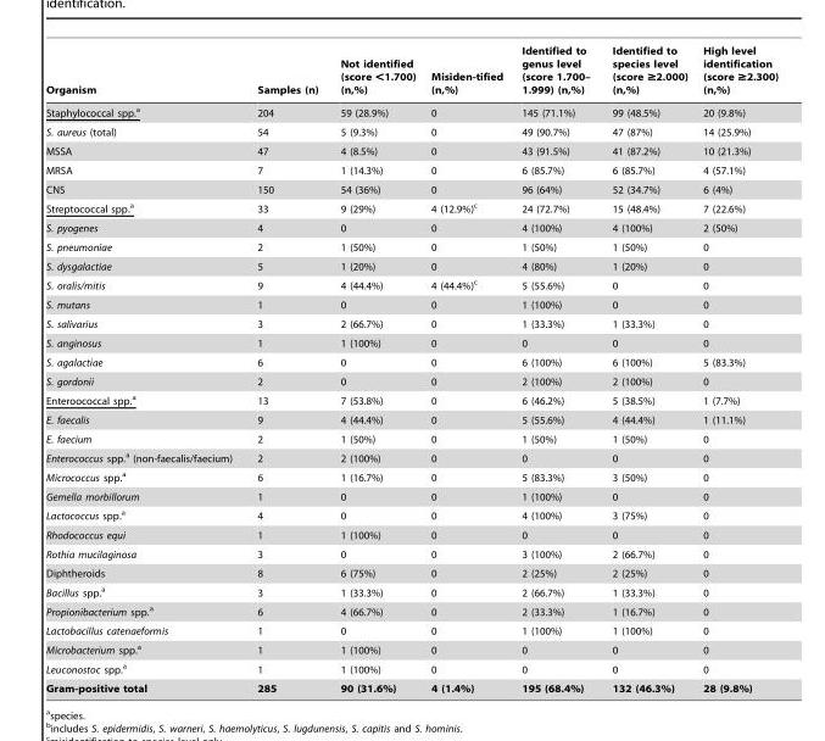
<table><thead><tr><td>Organism</td><td>Samples (n)</td><td>Not identified (score &lt;1.700) (n,%)</td><td>Misiden-tified (n,%)</td><td>Identified to genus level (score 1.700– 1.999) (n,%)</td><td>Identified to species level (score ≥2.000) (n,%)</td><td>High level identification (score ≥2.300) (n,%)</td></tr></thead><tbody><tr><td>Staphylococcal spp.a</td><td>204</td><td>59 (28.9%)</td><td>0</td><td>145 (71.1%)</td><td>99 (48.5%)</td><td>20 (9.8%)</td></tr><tr><td>S. aureus (total)</td><td>54</td><td>5 (9.3%)</td><td>0</td><td>49 (90.7%)</td><td>47 (87%)</td><td>14 (25.9%)</td></tr><tr><td>MSSA</td><td>47</td><td>4 (8.5%)</td><td>0</td><td>43 (91.5%)</td><td>41 (87.2%)</td><td>10 (21.3%)</td></tr><tr><td>MRSA</td><td>7</td><td>1 (14.3%)</td><td>0</td><td>6 (85.7%)</td><td>6 (85.7%)</td><td>4 (57.1%)</td></tr><tr><td>CNS</td><td>150</td><td>54 (36%)</td><td>0</td><td>96 (64%)</td><td>52 (34.7%)</td><td>6 (4%)</td></tr><tr><td>Streptococcal spp.a</td><td>33</td><td>9 (29%)</td><td>4 (12.9%)<sup>c</sup></td><td>24 (72.7%)</td><td>15 (48.4%)</td><td>7 (22.6%)</td></tr><tr><td>S. pyogenes</td><td>4</td><td>0</td><td>0</td><td>4 (100%)</td><td>4 (100%)</td><td>2 (50%)</td></tr><tr><td>S. pneumoniae</td><td>2</td><td>1 (50%)</td><td>0</td><td>1 (50%)</td><td>1 (50%)</td><td>0</td></tr><tr><td>S. dysgalactiae</td><td>5</td><td>1 (20%)</td><td>0</td><td>4 (80%)</td><td>1 (20%)</td><td>0</td></tr><tr><td>S. oralis/mitis</td><td>9</td><td>4 (44.4%)</td><td>4 (44.4%)<sup>c</sup></td><td>5 (55.6%)</td><td>0</td><td>0</td></tr><tr><td>S. mutans</td><td>1</td><td>0</td><td>0</td><td>1 (100%)</td><td>0</td><td>0</td></tr><tr><td>S. salivarius</td><td>3</td><td>2 (66.7%)</td><td>0</td><td>1 (33.3%)</td><td>1 (33.3%)</td><td>0</td></tr><tr><td>S. anginosus</td><td>1</td><td>1 (100%)</td><td>0</td><td>0</td><td>0</td><td>0</td></tr><tr><td>S. agalactiae</td><td>6</td><td>0</td><td>0</td><td>6 (100%)</td><td>6 (100%)</td><td>5 (83.3%)</td></tr><tr><td>S. gordonii</td><td>2</td><td>0</td><td>0</td><td>2 (100%)</td><td>2 (100%)</td><td>0</td></tr><tr><td>Enteroococcal spp.a</td><td>13</td><td>7 (53.8%)</td><td>0</td><td>6 (46.2%)</td><td>5 (38.5%)</td><td>1 (7.7%)</td></tr><tr><td>E. faecalis</td><td>9</td><td>4 (44.4%)</td><td>0</td><td>5 (55.6%)</td><td>4 (44.4%)</td><td>1 (11.1%)</td></tr><tr><td>E. faecium</td><td>2</td><td>1 (50%)</td><td>0</td><td>1 (50%)</td><td>1 (50%)</td><td>0</td></tr><tr><td>Enterococcus spp.<sup>a</sup> (non-faecalis/faecium)</td><td>2</td><td>2 (100%)</td><td>0</td><td>0</td><td>0</td><td>0</td></tr><tr><td>Micrococcus spp.<sup>a</sup></td><td>6</td><td>1 (16.7%)</td><td>0</td><td>5 (83.3%)</td><td>3 (50%)</td><td>0</td></tr><tr><td>Gemella morbillorum</td><td>1</td><td>0</td><td>0</td><td>1 (100%)</td><td>0</td><td>0</td></tr><tr><td>Lactococcus spp.<sup>a</sup></td><td>4</td><td>0</td><td>0</td><td>4 (100%)</td><td>3 (75%)</td><td>0</td></tr><tr><td>Rhodococcus equi</td><td>1</td><td>1 (100%)</td><td>0</td><td>0</td><td>0</td><td>0</td></tr><tr><td>Rothia mucilaginosa</td><td>3</td><td>0</td><td>0</td><td>3 (100%)</td><td>2 (66.7%)</td><td>0</td></tr><tr><td>Diphtheroids</td><td>8</td><td>6 (75%)</td><td>0</td><td>2 (25%)</td><td>2 (25%)</td><td>0</td></tr><tr><td>Bacillus spp.<sup>a</sup></td><td>3</td><td>1 (33.3%)</td><td>0</td><td>2 (66.7%)</td><td>1 (33.3%)</td><td>0</td></tr><tr><td>Propionibacterium spp.<sup>a</sup></td><td>6</td><td>4 (66.7%)</td><td>0</td><td>2 (33.3%)</td><td>1 (16.7%)</td><td>0</td></tr><tr><td>Lactobacillus catenaeformis</td><td>1</td><td>0</td><td>0</td><td>1 (100%)</td><td>1 (100%)</td><td>0</td></tr><tr><td>Microbacterium spp.<sup>a</sup></td><td>1</td><td>1 (100%)</td><td>0</td><td>0</td><td>0</td><td>0</td></tr><tr><td>Leuconostoc spp.<sup>a</sup></td><td>1</td><td>1 (100%)</td><td>0</td><td>0</td><td>0</td><td>0</td></tr><tr><td>Gram-positive total</td><td>285</td><td>90 (31.6%)</td><td>4 (1.4%)</td><td>195 (68.4%)</td><td>132 (46.3%)</td><td>28 (9.8%)</td></tr></tbody></table>